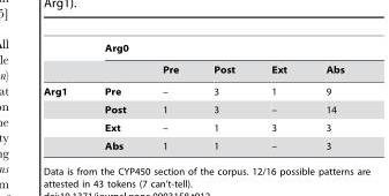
<table><thead><tr><td rowspan="2"></td><td colspan="5">Arg0</td></tr><tr><td></td><td>Pre</td><td>Post</td><td>Ext</td><td>Abs</td></tr></thead><tbody><tr><td rowspan="4">Arg1</td><td>Pre</td><td>–</td><td>3</td><td>1</td><td>9</td></tr><tr><td>Post</td><td>1</td><td>3</td><td>–</td><td>14</td></tr><tr><td>Ext</td><td>–</td><td>1</td><td>3</td><td>3</td></tr><tr><td>Abs</td><td>1</td><td>1</td><td>–</td><td>3</td></tr></tbody></table>